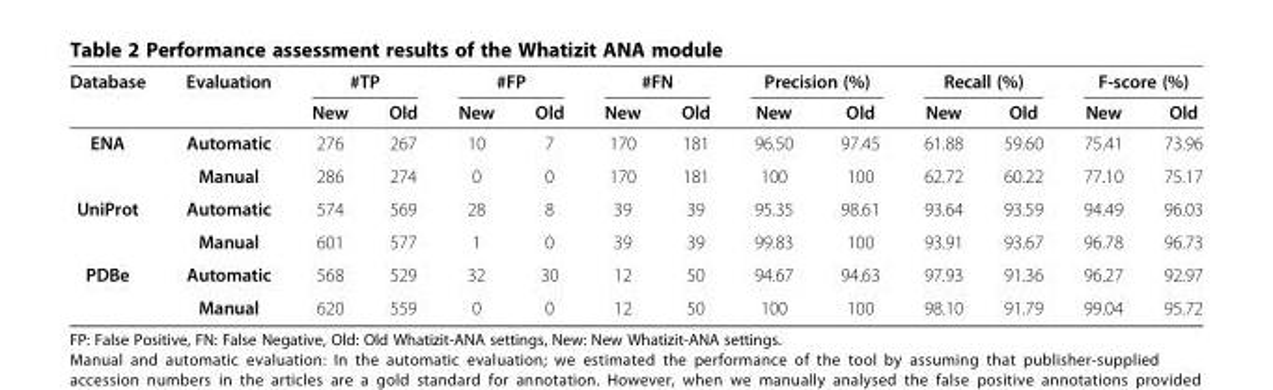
<table><thead><tr><td rowspan="2">Database</td><td rowspan="2">Evaluation</td><td colspan="2">#TP</td><td colspan="2">#FP</td><td colspan="2">#FN</td><td colspan="2">Precision (%)</td><td colspan="2">Recall (%)</td><td colspan="2">F-score (%)</td></tr><tr><td>New</td><td>Old</td><td>New</td><td>Old</td><td>New</td><td>Old</td><td>New</td><td>Old</td><td>New</td><td>Old</td><td>New</td><td>Old</td></tr></thead><tbody><tr><td rowspan="2">ENA</td><td>Automatic</td><td>276</td><td>267</td><td>10</td><td>7</td><td>170</td><td>181</td><td>96.50</td><td>97.45</td><td>61.88</td><td>59.60</td><td>75.41</td><td>73.96</td></tr><tr><td>Manual</td><td>286</td><td>274</td><td>0</td><td>0</td><td>170</td><td>181</td><td>100</td><td>100</td><td>62.72</td><td>60.22</td><td>77.10</td><td>75.17</td></tr><tr><td rowspan="2">UniProt</td><td>Automatic</td><td>574</td><td>569</td><td>28</td><td>8</td><td>39</td><td>39</td><td>95.35</td><td>98.61</td><td>93.64</td><td>93.59</td><td>94.49</td><td>96.03</td></tr><tr><td>Manual</td><td>601</td><td>577</td><td>1</td><td>0</td><td>39</td><td>39</td><td>99.83</td><td>100</td><td>93.91</td><td>93.67</td><td>96.78</td><td>96.73</td></tr><tr><td rowspan="2">PDBe</td><td>Automatic</td><td>568</td><td>529</td><td>32</td><td>30</td><td>12</td><td>50</td><td>94.67</td><td>94.63</td><td>97.93</td><td>91.36</td><td>96.27</td><td>92.97</td></tr><tr><td>Manual</td><td>620</td><td>559</td><td>0</td><td>0</td><td>12</td><td>50</td><td>100</td><td>100</td><td>98.10</td><td>91.79</td><td>99.04</td><td>95.72</td></tr></tbody></table>